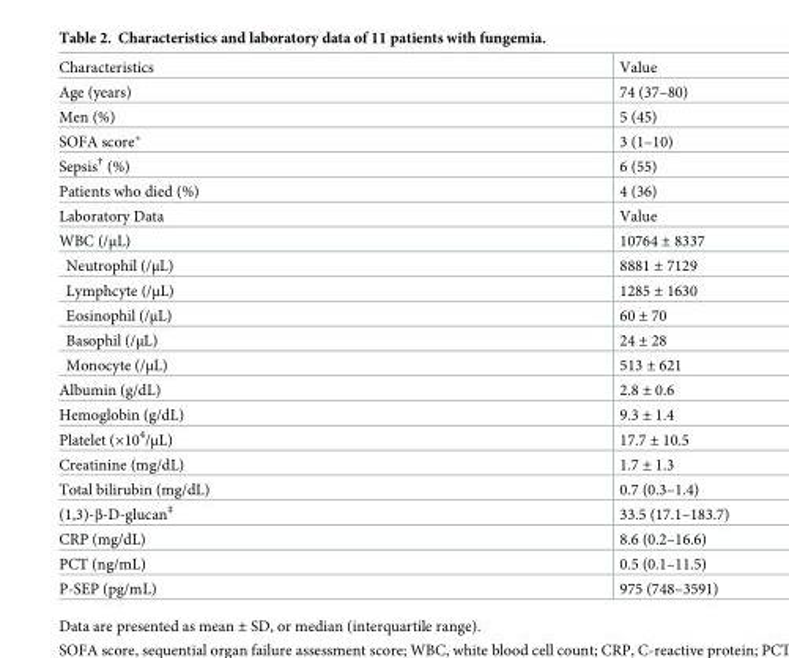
<table><tbody><tr><td>Characteristics</td><td>Value</td></tr><tr><td>Age (years)</td><td>74 (37–80)</td></tr><tr><td>Men (%)</td><td>5 (45)</td></tr><tr><td>SOFA score*</td><td>3 (1–10)</td></tr><tr><td>Sepsis<sup>†</sup> (%)</td><td>6 (55)</td></tr><tr><td>Patients who died (%)</td><td>4 (36)</td></tr><tr><td>Laboratory Data</td><td>Value</td></tr><tr><td>WBC (/μL)</td><td>10764 ± 8337</td></tr><tr><td>Neutrophil (/μL)</td><td>8881 ± 7129</td></tr><tr><td>Lymphcyte (/μL)</td><td>1285 ± 1630</td></tr><tr><td>Eosinophil (/μL)</td><td>60 ± 70</td></tr><tr><td>Basophil (/μL)</td><td>24 ± 28</td></tr><tr><td>Monocyte (/μL)</td><td>513 ± 621</td></tr><tr><td>Albumin (g/dL)</td><td>2.8 ± 0.6</td></tr><tr><td>Hemoglobin (g/dL)</td><td>9.3 ± 1.4</td></tr><tr><td>Platelet (×10<sup>4</sup>/μL)</td><td>17.7 ± 10.5</td></tr><tr><td>Creatinine (mg/dL)</td><td>1.7 ± 1.3</td></tr><tr><td>Total bilirubin (mg/dL)</td><td>0.7 (0.3–1.4)</td></tr><tr><td>(1,3)-β-D-glucan<sup>‡</sup></td><td>33.5 (17.1–183.7)</td></tr><tr><td>CRP (mg/dL)</td><td>8.6 (0.2–16.6)</td></tr><tr><td>PCT (ng/mL)</td><td>0.5 (0.1–11.5)</td></tr><tr><td>P-SEP (pg/mL)</td><td>975 (748–3591)</td></tr></tbody></table>